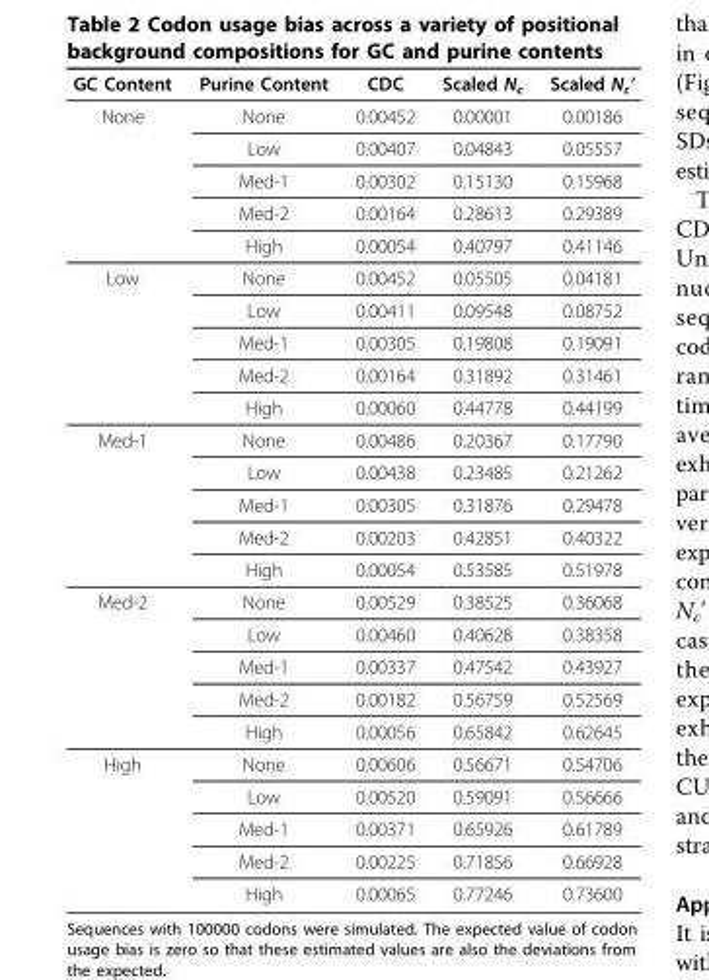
<table><thead><tr><td>GC Content</td><td>Purine Content</td><td>CDC</td><td>Scaled N<sub>c</sub></td><td>Scaled N<sub>c</sub>’</td></tr></thead><tbody><tr><td rowspan="5">None</td><td>None</td><td>0.00452</td><td>0.00001</td><td>0.00186</td></tr><tr><td>Low</td><td>0.00407</td><td>0.04843</td><td>0.05557</td></tr><tr><td>Med-1</td><td>0.00302</td><td>0.15130</td><td>0.15968</td></tr><tr><td>Med-2</td><td>0.00164</td><td>0.28613</td><td>0.29389</td></tr><tr><td>High</td><td>0.00054</td><td>0.40797</td><td>0.41146</td></tr><tr><td rowspan="5">Low</td><td>None</td><td>0.00452</td><td>0.05505</td><td>0.04181</td></tr><tr><td>Low</td><td>0.00411</td><td>0.09548</td><td>0.08752</td></tr><tr><td>Med-1</td><td>0.00305</td><td>0.19808</td><td>0.19091</td></tr><tr><td>Med-2</td><td>0.00164</td><td>0.31892</td><td>0.31461</td></tr><tr><td>High</td><td>0.00060</td><td>0.44778</td><td>0.44199</td></tr><tr><td rowspan="5">Med-1</td><td>None</td><td>0.00486</td><td>0.20367</td><td>0.17790</td></tr><tr><td>Low</td><td>0.00438</td><td>0.23485</td><td>0.21262</td></tr><tr><td>Med-1</td><td>0.00305</td><td>0.31876</td><td>0.29478</td></tr><tr><td>Med-2</td><td>0.00203</td><td>0.42851</td><td>0.40322</td></tr><tr><td>High</td><td>0.00054</td><td>0.53585</td><td>0.51978</td></tr><tr><td rowspan="5">Med-2</td><td>None</td><td>0.00529</td><td>0.38525</td><td>0.36068</td></tr><tr><td>Low</td><td>0.00460</td><td>0.40628</td><td>0.38358</td></tr><tr><td>Med-1</td><td>0.00337</td><td>0.47542</td><td>0.43927</td></tr><tr><td>Med-2</td><td>0.00182</td><td>0.56759</td><td>0.52569</td></tr><tr><td>High</td><td>0.00056</td><td>0.65842</td><td>0.62645</td></tr><tr><td rowspan="5">High</td><td>None</td><td>0.00606</td><td>0.56671</td><td>0.54706</td></tr><tr><td>Low</td><td>0.00520</td><td>0.59091</td><td>0.56666</td></tr><tr><td>Med-1</td><td>0.00371</td><td>0.65926</td><td>0.61789</td></tr><tr><td>Med-2</td><td>0.00225</td><td>0.71856</td><td>0.66928</td></tr><tr><td>High</td><td>0.00065</td><td>0.77246</td><td>0.73600</td></tr></tbody></table>